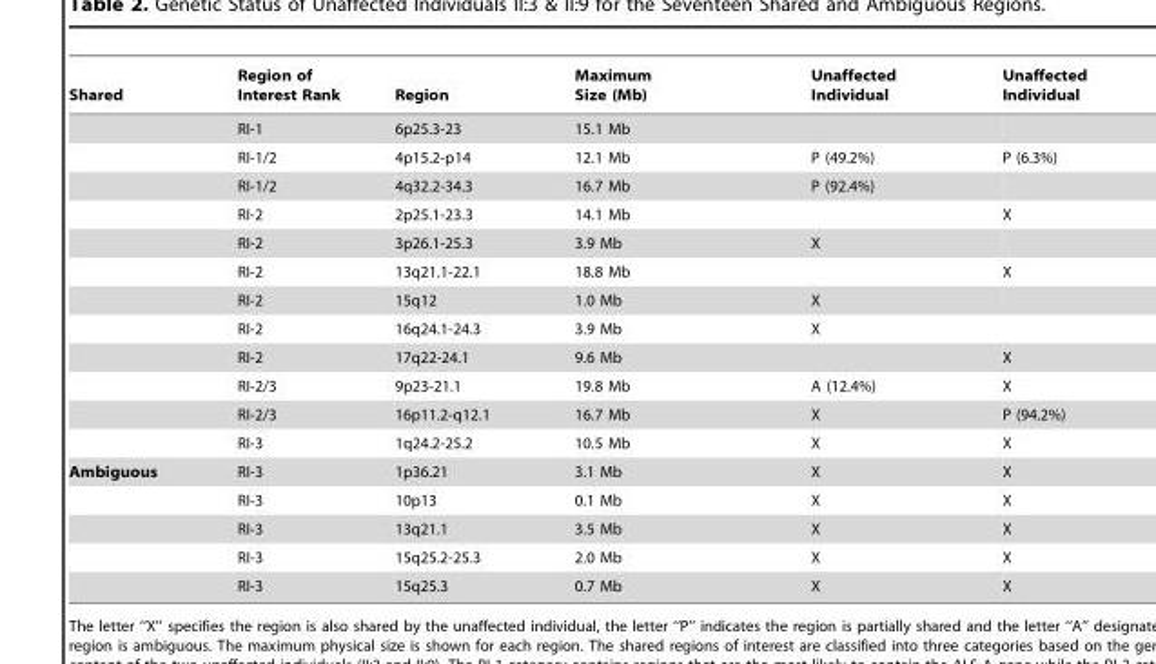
<table><thead><tr><td>Shared</td><td>Region of Interest Rank</td><td>Region</td><td>Maximum Size (Mb)</td><td>Unaffected Individual</td><td>Unaffected Individual</td></tr></thead><tbody><tr><td></td><td>RI-1</td><td>6p25.3-23</td><td>15.1 Mb</td><td></td><td></td></tr><tr><td></td><td>RI-1/2</td><td>4p15.2-p14</td><td>12.1 Mb</td><td>P (49.2%)</td><td>P (6.3%)</td></tr><tr><td></td><td>RI-1/2</td><td>4q32.2-34.3</td><td>16.7 Mb</td><td>P (92.4%)</td><td></td></tr><tr><td></td><td>RI-2</td><td>2p25.1-23.3</td><td>14.1 Mb</td><td></td><td>X</td></tr><tr><td></td><td>RI-2</td><td>3p26.1-25.3</td><td>3.9 Mb</td><td>X</td><td></td></tr><tr><td></td><td>RI-2</td><td>13q21.1-22.1</td><td>18.8 Mb</td><td></td><td>X</td></tr><tr><td></td><td>RI-2</td><td>15q12</td><td>1.0 Mb</td><td>X</td><td></td></tr><tr><td></td><td>RI-2</td><td>16q24.1-24.3</td><td>3.9 Mb</td><td>X</td><td></td></tr><tr><td></td><td>RI-2</td><td>17q22-24.1</td><td>9.6 Mb</td><td></td><td>X</td></tr><tr><td></td><td>RI-2/3</td><td>9p23-21.1</td><td>19.8 Mb</td><td>A (12.4%)</td><td>X</td></tr><tr><td></td><td>RI-2/3</td><td>16p11.2-q12.1</td><td>16.7 Mb</td><td>X</td><td>P (94.2%)</td></tr><tr><td></td><td>RI-3</td><td>1q24.2-25.2</td><td>10.5 Mb</td><td>X</td><td>X</td></tr><tr><td rowspan="5">Ambiguous</td><td>RI-3</td><td>1p36.21</td><td>3.1 Mb</td><td>X</td><td>X</td></tr><tr><td>RI-3</td><td>10p13</td><td>0.1 Mb</td><td>X</td><td>X</td></tr><tr><td>RI-3</td><td>13q21.1</td><td>3.5 Mb</td><td>X</td><td>X</td></tr><tr><td>RI-3</td><td>15q25.2-25.3</td><td>2.0 Mb</td><td>X</td><td>X</td></tr><tr><td>RI-3</td><td>15q25.3</td><td>0.7 Mb</td><td>X</td><td>X</td></tr></tbody></table>